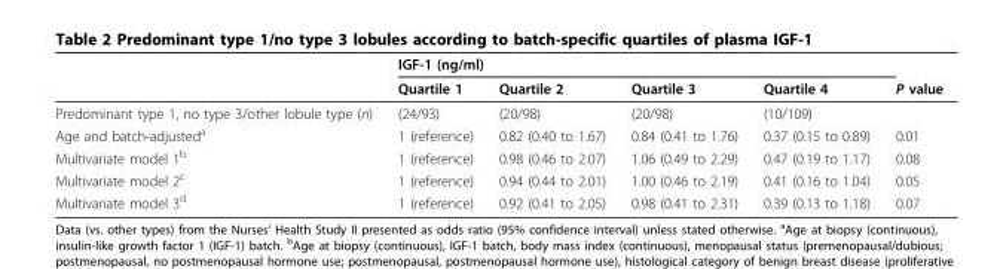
<table><thead><tr><td rowspan="2"></td><td colspan="4">IGF-1 (ng/ml)</td><td rowspan="2">P value</td></tr><tr><td>Quartile 1</td><td>Quartile 2</td><td>Quartile 3</td><td>Quartile 4</td></tr></thead><tbody><tr><td>Predominant type 1, no type 3/other lobule type (n)</td><td>(24/93)</td><td>(20/98)</td><td>(20/98)</td><td>(10/109)</td><td></td></tr><tr><td>Age and batch-adjusted<sup>a</sup></td><td>1 (reference)</td><td>0.82 (0.40 to 1.67)</td><td>0.84 (0.41 to 1.76)</td><td>0.37 (0.15 to 0.89)</td><td>0.01</td></tr><tr><td>Multivariate model 1<sup>b</sup></td><td>1 (reference)</td><td>0.98 (0.46 to 2.07)</td><td>1.06 (0.49 to 2.29)</td><td>0.47 (0.19 to 1.17)</td><td>0.08</td></tr><tr><td>Multivariate model 2<sup>c</sup></td><td>1 (reference)</td><td>0.94 (0.44 to 2.01)</td><td>1.00 (0.46 to 2.19)</td><td>0.41 (0.16 to 1.04)</td><td>0.05</td></tr><tr><td>Multivariate model 3<sup>d</sup></td><td>1 (reference)</td><td>0.92 (0.41 to 2.05)</td><td>0.98 (0.41 to 2.31)</td><td>0.39 (0.13 to 1.18)</td><td>0.07</td></tr></tbody></table>